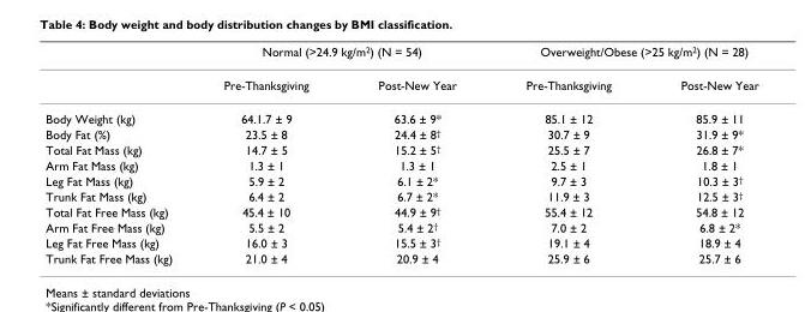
<table><thead><tr><td rowspan="2"></td><td colspan="2">Normal (&gt;24.9 kg/m<sup>2</sup>) (N = 54)</td><td colspan="2">Overweight/Obese (&gt;25 kg/m<sup>2</sup>) (N = 28)</td></tr><tr><td>Pre-Thanksgiving</td><td>Post-New Year</td><td>Pre-Thanksgiving</td><td>Post-New Year</td></tr></thead><tbody><tr><td>Body Weight (kg)</td><td>64.1.7 ± 9</td><td>63.6 ± 9*</td><td>85.1 ± 12</td><td>85.9 ± 11</td></tr><tr><td>Body Fat (%)</td><td>23.5 ± 8</td><td>24.4 ± 8<sup>†</sup></td><td>30.7 ± 9</td><td>31.9 ± 9*</td></tr><tr><td>Total Fat Mass (kg)</td><td>14.7 ± 5</td><td>15.2 ± 5<sup>†</sup></td><td>25.5 ± 7</td><td>26.8 ± 7*</td></tr><tr><td>Arm Fat Mass (kg)</td><td>1.3 ± 1</td><td>1.3 ± 1</td><td>2.5 ± 1</td><td>1.8 ± 1</td></tr><tr><td>Leg Fat Mass (kg)</td><td>5.9 ± 2</td><td>6.1 ± 2*</td><td>9.7 ± 3</td><td>10.3 ± 3<sup>†</sup></td></tr><tr><td>Trunk Fat Mass (kg)</td><td>6.4 ± 2</td><td>6.7 ± 2*</td><td>11.9 ± 3</td><td>12.5 ± 3<sup>†</sup></td></tr><tr><td>Total Fat Free Mass (kg)</td><td>45.4 ± 10</td><td>44.9 ± 9<sup>†</sup></td><td>55.4 ± 12</td><td>54.8 ± 12</td></tr><tr><td>Arm Fat Free Mass (kg)</td><td>5.5 ± 2</td><td>5.4 ± 2<sup>†</sup></td><td>7.0 ± 2</td><td>6.8 ± 2*</td></tr><tr><td>Leg Fat Free Mass (kg)</td><td>16.0 ± 3</td><td>15.5 ± 3<sup>†</sup></td><td>19.1 ± 4</td><td>18.9 ± 4</td></tr><tr><td>Trunk Fat Free Mass (kg)</td><td>21.0 ± 4</td><td>20.9 ± 4</td><td>25.9 ± 6</td><td>25.7 ± 6</td></tr></tbody></table>